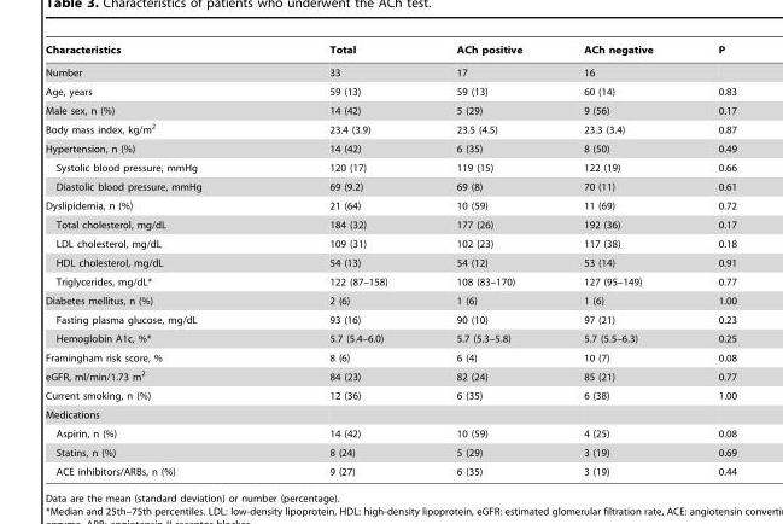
<table><thead><tr><td>Characteristics</td><td>Total</td><td>ACh positive</td><td>ACh negative</td><td>P</td></tr></thead><tbody><tr><td>Number</td><td>33</td><td>17</td><td>16</td><td></td></tr><tr><td>Age, years</td><td>59 (13)</td><td>59 (13)</td><td>60 (14)</td><td>0.83</td></tr><tr><td>Male sex, n (%)</td><td>14 (42)</td><td>5 (29)</td><td>9 (56)</td><td>0.17</td></tr><tr><td>Body mass index, kg/m<sup>2</sup></td><td>23.4 (3.9)</td><td>23.5 (4.5)</td><td>23.3 (3.4)</td><td>0.87</td></tr><tr><td>Hypertension, n (%)</td><td>14 (42)</td><td>6 (35)</td><td>8 (50)</td><td>0.49</td></tr><tr><td>Systolic blood pressure, mmHg</td><td>120 (17)</td><td>119 (15)</td><td>122 (19)</td><td>0.66</td></tr><tr><td>Diastolic blood pressure, mmHg</td><td>69 (9.2)</td><td>69 (8)</td><td>70 (11)</td><td>0.61</td></tr><tr><td>Dyslipidemia, n (%)</td><td>21 (64)</td><td>10 (59)</td><td>11 (69)</td><td>0.72</td></tr><tr><td>Total cholesterol, mg/dL</td><td>184 (32)</td><td>177 (26)</td><td>192 (36)</td><td>0.17</td></tr><tr><td>LDL cholesterol, mg/dL</td><td>109 (31)</td><td>102 (23)</td><td>117 (38)</td><td>0.18</td></tr><tr><td>HDL cholesterol, mg/dL</td><td>54 (13)</td><td>54 (12)</td><td>53 (14)</td><td>0.91</td></tr><tr><td>Triglycerides, mg/dL*</td><td>122 (87–158)</td><td>108 (83–170)</td><td>127 (95–149)</td><td>0.77</td></tr><tr><td>Diabetes mellitus, n (%)</td><td>2 (6)</td><td>1 (6)</td><td>1 (6)</td><td>1.00</td></tr><tr><td>Fasting plasma glucose, mg/dL</td><td>93 (16)</td><td>90 (10)</td><td>97 (21)</td><td>0.23</td></tr><tr><td>Hemoglobin A1c, %*</td><td>5.7 (5.4–6.0)</td><td>5.7 (5.3–5.8)</td><td>5.7 (5.5–6.3)</td><td>0.25</td></tr><tr><td>Framingham risk score, %</td><td>8 (6)</td><td>6 (4)</td><td>10 (7)</td><td>0.08</td></tr><tr><td>eGFR, ml/min/1.73 m<sup>2</sup></td><td>84 (23)</td><td>82 (24)</td><td>85 (21)</td><td>0.77</td></tr><tr><td>Current smoking, n (%)</td><td>12 (36)</td><td>6 (35)</td><td>6 (38)</td><td>1.00</td></tr><tr><td colspan="5">Medications</td></tr><tr><td>Aspirin, n (%)</td><td>14 (42)</td><td>10 (59)</td><td>4 (25)</td><td>0.08</td></tr><tr><td>Statins, n (%)</td><td>8 (24)</td><td>5 (29)</td><td>3 (19)</td><td>0.69</td></tr><tr><td>ACE inhibitors/ARBs, n (%)</td><td>9 (27)</td><td>6 (35)</td><td>3 (19)</td><td>0.44</td></tr></tbody></table>